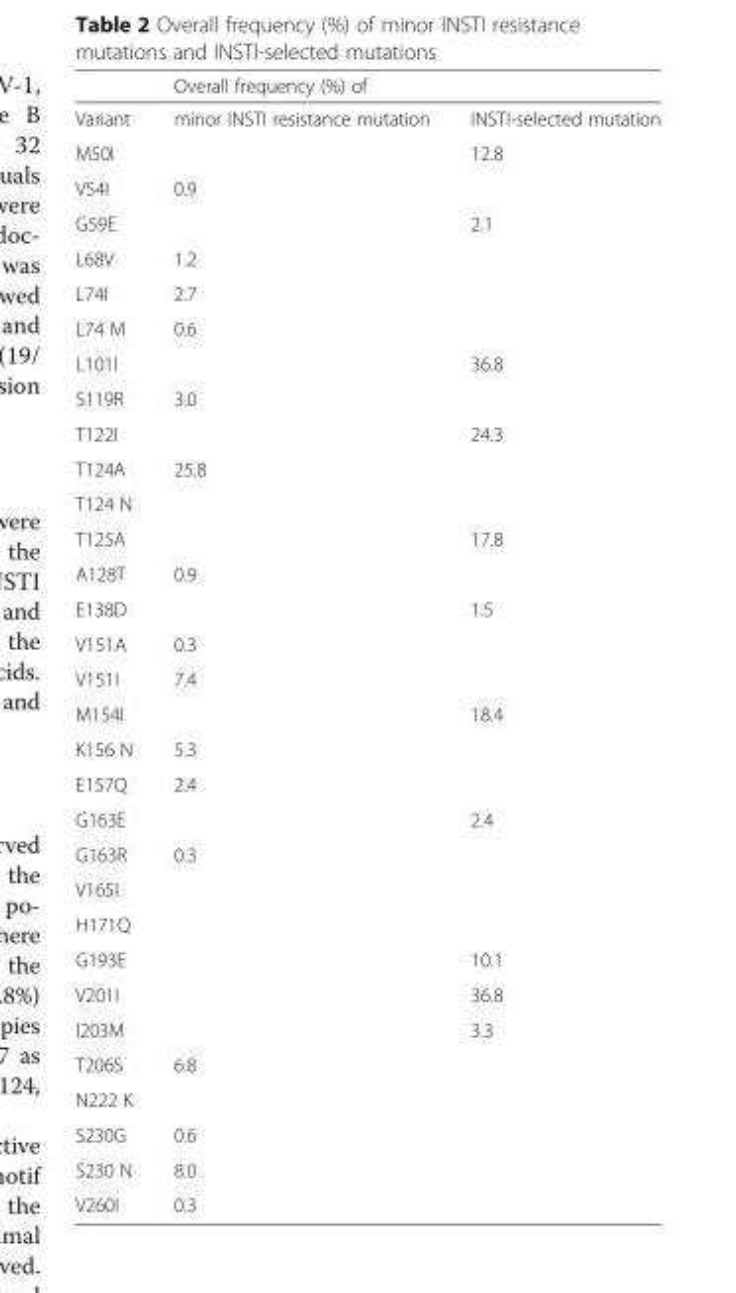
<table><thead><tr><td rowspan="2">Variant</td><td colspan="2">Overall frequency (%) of</td></tr><tr><td>minor INSTI resistance mutation</td><td>INSTI-selected mutation</td></tr></thead><tbody><tr><td>M50I</td><td></td><td>12.8</td></tr><tr><td>V54I</td><td>0.9</td><td></td></tr><tr><td>G59E</td><td></td><td>2.1</td></tr><tr><td>L68V</td><td>1.2</td><td></td></tr><tr><td>L74I</td><td>2.7</td><td></td></tr><tr><td>L74 M</td><td>0.6</td><td></td></tr><tr><td>L101I</td><td></td><td>36.8</td></tr><tr><td>S119R</td><td>3.0</td><td></td></tr><tr><td>T122I</td><td></td><td>24.3</td></tr><tr><td>T124A</td><td>25.8</td><td></td></tr><tr><td colspan="3">T124 N</td></tr><tr><td>T125A</td><td></td><td>17.8</td></tr><tr><td>A128T</td><td>0.9</td><td></td></tr><tr><td>E138D</td><td></td><td>1.5</td></tr><tr><td>V151A</td><td>0.3</td><td></td></tr><tr><td>V151I</td><td>7.4</td><td></td></tr><tr><td>M154I</td><td></td><td>18.4</td></tr><tr><td>K156 N</td><td>5.3</td><td></td></tr><tr><td>E157Q</td><td>2.4</td><td></td></tr><tr><td>G163E</td><td></td><td>2.4</td></tr><tr><td>G163R</td><td>0.3</td><td></td></tr><tr><td colspan="3">V165I</td></tr><tr><td colspan="3">H171Q</td></tr><tr><td>G193E</td><td></td><td>10.1</td></tr><tr><td>V201I</td><td></td><td>36.8</td></tr><tr><td>I203M</td><td></td><td>3.3</td></tr><tr><td>T206S</td><td>6.8</td><td></td></tr><tr><td colspan="3">N222 K</td></tr><tr><td>S230G</td><td>0.6</td><td></td></tr><tr><td>S230 N</td><td>8.0</td><td></td></tr><tr><td>V260I</td><td>0.3</td><td></td></tr></tbody></table>